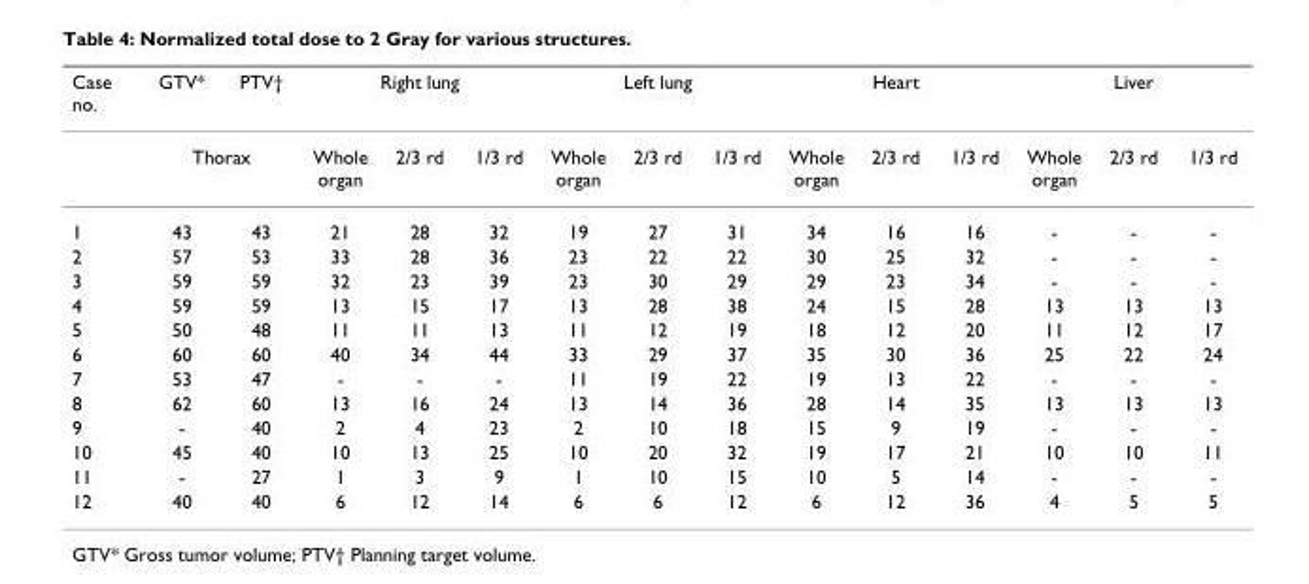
<table><thead><tr><td rowspan="2">Case no.</td><td>GTV*</td><td>PTV†</td><td colspan="3">Right lung</td><td colspan="3">Left lung</td><td colspan="3">Heart</td><td colspan="3">Liver</td></tr><tr><td colspan="2">Thorax</td><td>Whole organ</td><td>2/3 rd</td><td>1/3 rd</td><td>Whole organ</td><td>2/3 rd</td><td>1/3 rd</td><td>Whole organ</td><td>2/3 rd</td><td>1/3 rd</td><td>Whole organ</td><td>2/3 rd</td><td>1/3 rd</td></tr></thead><tbody><tr><td>1</td><td>43</td><td>43</td><td>21</td><td>28</td><td>32</td><td>19</td><td>27</td><td>31</td><td>34</td><td>16</td><td>16</td><td>-</td><td>-</td><td>-</td></tr><tr><td>2</td><td>57</td><td>53</td><td>33</td><td>28</td><td>36</td><td>23</td><td>22</td><td>22</td><td>30</td><td>25</td><td>32</td><td>-</td><td>-</td><td>-</td></tr><tr><td>3</td><td>59</td><td>59</td><td>32</td><td>23</td><td>39</td><td>23</td><td>30</td><td>29</td><td>29</td><td>23</td><td>34</td><td>-</td><td>-</td><td>-</td></tr><tr><td>4</td><td>59</td><td>59</td><td>13</td><td>15</td><td>17</td><td>13</td><td>28</td><td>38</td><td>24</td><td>15</td><td>28</td><td>13</td><td>13</td><td>13</td></tr><tr><td>5</td><td>50</td><td>48</td><td>11</td><td>11</td><td>13</td><td>11</td><td>12</td><td>19</td><td>18</td><td>12</td><td>20</td><td>11</td><td>12</td><td>17</td></tr><tr><td>6</td><td>60</td><td>60</td><td>40</td><td>34</td><td>44</td><td>33</td><td>29</td><td>37</td><td>35</td><td>30</td><td>36</td><td>25</td><td>22</td><td>24</td></tr><tr><td>7</td><td>53</td><td>47</td><td>-</td><td>-</td><td>-</td><td>11</td><td>19</td><td>22</td><td>19</td><td>13</td><td>22</td><td>-</td><td>-</td><td>-</td></tr><tr><td>8</td><td>62</td><td>60</td><td>13</td><td>16</td><td>24</td><td>13</td><td>14</td><td>36</td><td>28</td><td>14</td><td>35</td><td>13</td><td>13</td><td>13</td></tr><tr><td>9</td><td>-</td><td>40</td><td>2</td><td>4</td><td>23</td><td>2</td><td>10</td><td>18</td><td>15</td><td>9</td><td>19</td><td>-</td><td>-</td><td>-</td></tr><tr><td>10</td><td>45</td><td>40</td><td>10</td><td>13</td><td>25</td><td>10</td><td>20</td><td>32</td><td>19</td><td>17</td><td>21</td><td>10</td><td>10</td><td>11</td></tr><tr><td>11</td><td>-</td><td>27</td><td>1</td><td>3</td><td>9</td><td>1</td><td>10</td><td>15</td><td>10</td><td>5</td><td>14</td><td>-</td><td>-</td><td>-</td></tr><tr><td>12</td><td>40</td><td>40</td><td>6</td><td>12</td><td>14</td><td>6</td><td>6</td><td>12</td><td>6</td><td>12</td><td>36</td><td>4</td><td>5</td><td>5</td></tr></tbody></table>